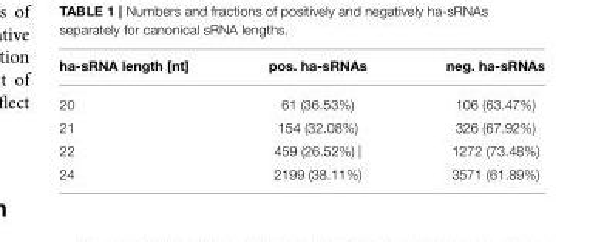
<table><thead><tr><td>ha-sRNA length [nt]</td><td>pos. ha-sRNAs</td><td>neg. ha-sRNAs</td></tr></thead><tbody><tr><td>20</td><td>61 (36.53%)</td><td>106 (63.47%)</td></tr><tr><td>21</td><td>154 (32.08%)</td><td>326 (67.92%)</td></tr><tr><td>22</td><td>459 (26.52%) |</td><td>1272 (73.48%)</td></tr><tr><td>24</td><td>2199 (38.11%)</td><td>3571 (61.89%)</td></tr></tbody></table>